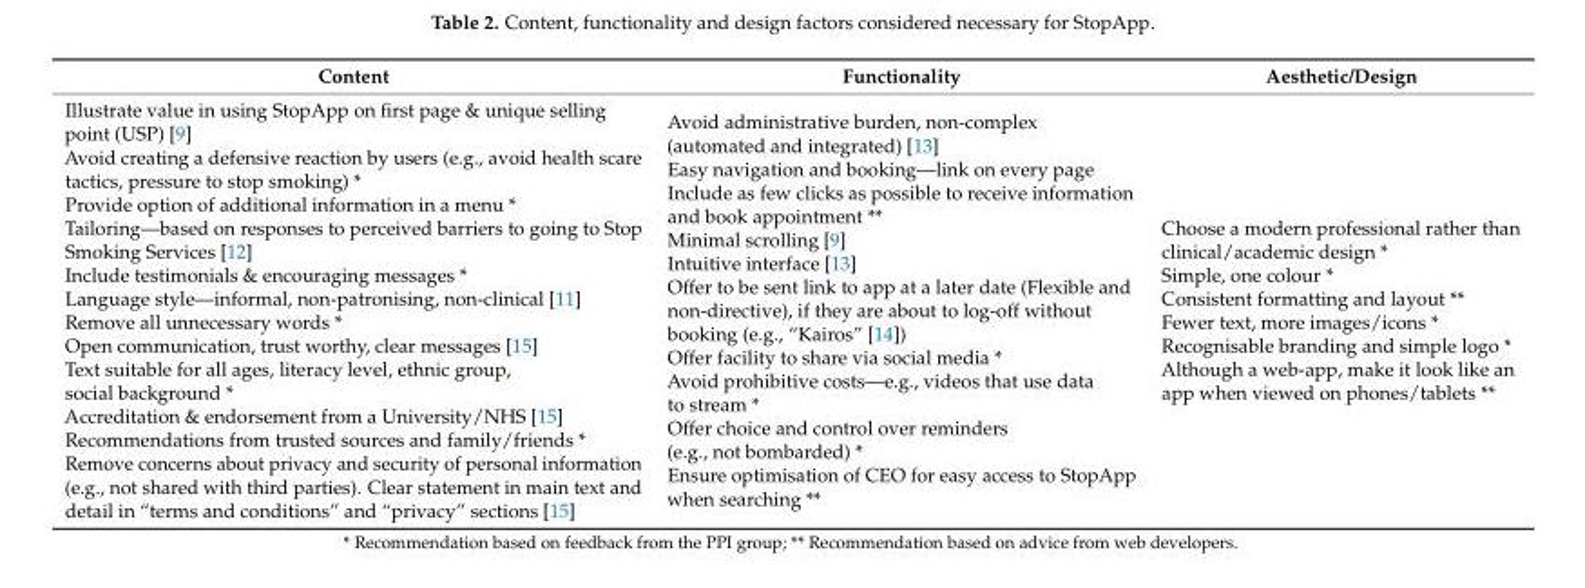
<table><thead><tr><td>Content</td><td>Functionality</td><td>Aesthetic/Design</td></tr></thead><tbody><tr><td>Illustrate value in using StopApp on first page &amp; unique selling point (USP) [9] Avoid creating a defensive reaction by users (e.g., avoid health scare tactics, pressure to stop smoking) * Provide option of additional information in a menu * Tailoring—based on responses to perceived barriers to going to Stop Smoking Services [12] Include testimonials &amp; encouraging messages * Language style—informal, non-patronising, non-clinical [11] Remove all unnecessary words * Open communication, trust worthy, clear messages [15] Text suitable for all ages, literacy level, ethnic group, social background * Accreditation &amp; endorsement from a University/NHS [15] Recommendations from trusted sources and family/friends * Remove concerns about privacy and security of personal information (e.g., not shared with third parties). Clear statement in main text and detail in “terms and conditions” and “privacy” sections [15]</td><td>Avoid administrative burden, non-complex (automated and integrated) [13] Easy navigation and booking—link on every page Include as few clicks as possible to receive information and book appointment ** Minimal scrolling [9] Intuitive interface [13] Offer to be sent link to app at a later date (Flexible and non-directive), if they are about to log-off without booking (e.g., “Kairos” [14]) Offer facility to share via social media * Avoid prohibitive costs—e.g., videos that use data to stream * Offer choice and control over reminders (e.g., not bombarded) * Ensure optimisation of CEO for easy access to StopApp when searching **</td><td>Choose a modern professional rather than clinical/academic design * Simple, one colour * Consistent formatting and layout ** Fewer text, more images/icons * Recognisable branding and simple logo * Although a web-app, make it look like an app when viewed on phones/tablets **</td></tr></tbody></table>